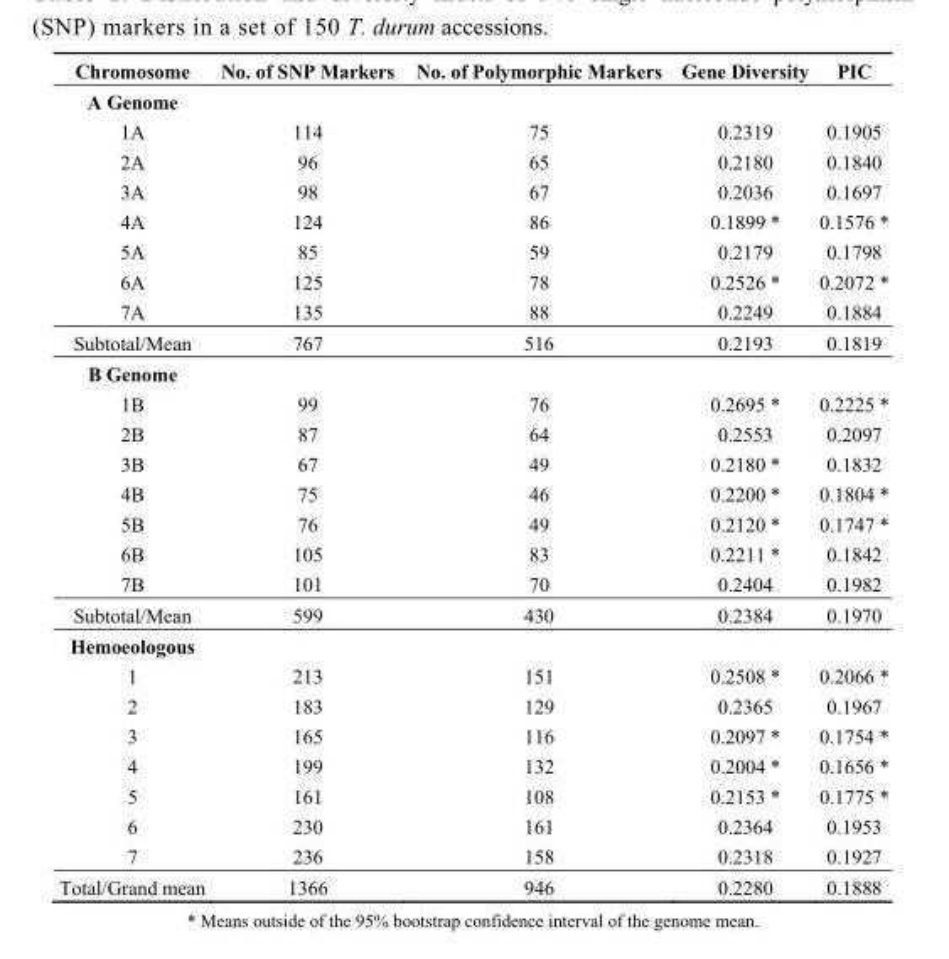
<table><thead><tr><td>Chromosome</td><td>No. of SNP Markers</td><td>No. of Polymorphic Markers</td><td>Gene Diversity</td><td>PIC</td></tr></thead><tbody><tr><td colspan="5">A Genome</td></tr><tr><td>1A</td><td>114</td><td>75</td><td>0.2319</td><td>0.1905</td></tr><tr><td>2A</td><td>96</td><td>65</td><td>0.2180</td><td>0.1840</td></tr><tr><td>3A</td><td>98</td><td>67</td><td>0.2036</td><td>0.1697</td></tr><tr><td>4A</td><td>124</td><td>86</td><td>0.1899 *</td><td>0.1576 *</td></tr><tr><td>5A</td><td>85</td><td>59</td><td>0.2179</td><td>0.1798</td></tr><tr><td>6A</td><td>125</td><td>78</td><td>0.2526 *</td><td>0.2072 *</td></tr><tr><td>7A</td><td>135</td><td>88</td><td>0.2249</td><td>0.1884</td></tr><tr><td>Subtotal/Mean</td><td>767</td><td>516</td><td>0.2193</td><td>0.1819</td></tr><tr><td colspan="5">B Genome</td></tr><tr><td>1B</td><td>99</td><td>76</td><td>0.2695 *</td><td>0.2225 *</td></tr><tr><td>2B</td><td>87</td><td>64</td><td>0.2553</td><td>0.2097</td></tr><tr><td>3B</td><td>67</td><td>49</td><td>0.2180 *</td><td>0.1832</td></tr><tr><td>4B</td><td>75</td><td>46</td><td>0.2200 *</td><td>0.1804 *</td></tr><tr><td>5B</td><td>76</td><td>49</td><td>0.2120 *</td><td>0.1747 *</td></tr><tr><td>6B</td><td>105</td><td>83</td><td>0.2211 *</td><td>0.1842</td></tr><tr><td>7B</td><td>101</td><td>70</td><td>0.2404</td><td>0.1982</td></tr><tr><td>Subtotal/Mean</td><td>599</td><td>430</td><td>0.2384</td><td>0.1970</td></tr><tr><td colspan="5">Hemoeologous</td></tr><tr><td>1</td><td>213</td><td>151</td><td>0.2508 *</td><td>0.2066 *</td></tr><tr><td>2</td><td>183</td><td>129</td><td>0.2365</td><td>0.1967</td></tr><tr><td>3</td><td>165</td><td>116</td><td>0.2097 *</td><td>0.1754 *</td></tr><tr><td>4</td><td>199</td><td>132</td><td>0.2004 *</td><td>0.1656 *</td></tr><tr><td>5</td><td>161</td><td>108</td><td>0.2153 *</td><td>0.1775 *</td></tr><tr><td>6</td><td>230</td><td>161</td><td>0.2364</td><td>0.1953</td></tr><tr><td>7</td><td>236</td><td>158</td><td>0.2318</td><td>0.1927</td></tr><tr><td>Total/Grand mean</td><td>1366</td><td>946</td><td>0.2280</td><td>0.1888</td></tr></tbody></table>